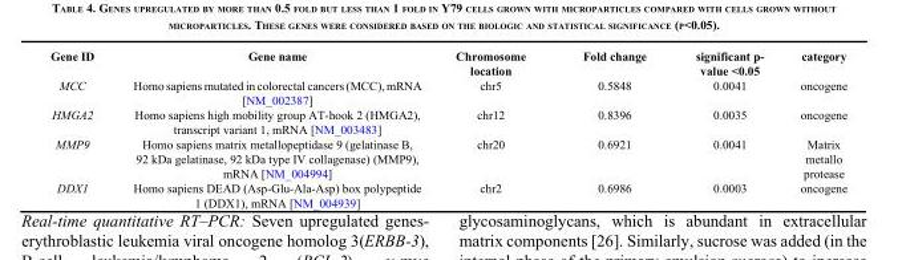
<table><thead><tr><td>Gene ID</td><td>Gene name</td><td>Chromosome location</td><td>Fold change</td><td>significant p- value &lt;0.05</td><td>category</td></tr></thead><tbody><tr><td>MCC</td><td>Homo sapiens mutated in colorectal cancers (MCC), mRNA [NM_002387]</td><td>chr5</td><td>0.5848</td><td>0.0041</td><td>oncogene</td></tr><tr><td>HMGA2</td><td>Homo sapiens high mobility group AT-hook 2 (HMGA2), transcript variant 1, mRNA [NM_003483]</td><td>chr12</td><td>0.8396</td><td>0.0035</td><td>oncogene</td></tr><tr><td>MMP9</td><td>Homo sapiens matrix metallopeptidase 9 (gelatinase B, 92 kDa gelatinase, 92 kDa type IV collagenase) (MMP9), mRNA [NM_004994]</td><td>chr20</td><td>0.6921</td><td>0.0041</td><td>Matrix metallo protease</td></tr><tr><td>DDX1</td><td>Homo sapiens DEAD (Asp-Glu-Ala-Asp) box polypeptide 1 (DDX1), mRNA [NM_004939]</td><td>chr2</td><td>0.6986</td><td>0.0003</td><td>oncogene</td></tr></tbody></table>